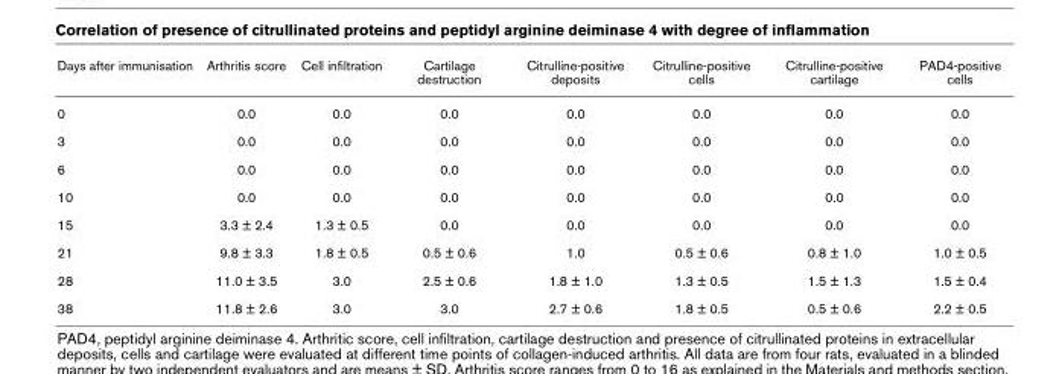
<table><thead><tr><td>Days after immunisation</td><td>Arthritis score</td><td>Cell infiltration</td><td>Cartilage destruction</td><td>Citrulline-positive deposits</td><td>Citrulline-positive cells</td><td>Citrulline-positive cartilage</td><td>PAD4-positive cells</td></tr></thead><tbody><tr><td>0</td><td>0.0</td><td>0.0</td><td>0.0</td><td>0.0</td><td>0.0</td><td>0.0</td><td>0.0</td></tr><tr><td>3</td><td>0.0</td><td>0.0</td><td>0.0</td><td>0.0</td><td>0.0</td><td>0.0</td><td>0.0</td></tr><tr><td>6</td><td>0.0</td><td>0.0</td><td>0.0</td><td>0.0</td><td>0.0</td><td>0.0</td><td>0.0</td></tr><tr><td>10</td><td>0.0</td><td>0.0</td><td>0.0</td><td>0.0</td><td>0.0</td><td>0.0</td><td>0.0</td></tr><tr><td>15</td><td>3.3 ± 2.4</td><td>1.3 ± 0.5</td><td>0.0</td><td>0.0</td><td>0.0</td><td>0.0</td><td>0.0</td></tr><tr><td>21</td><td>9.8 ± 3.3</td><td>1.8 ± 0.5</td><td>0.5 ± 0.6</td><td>1.0</td><td>0.5 ± 0.6</td><td>0.8 ± 1.0</td><td>1.0 ± 0.5</td></tr><tr><td>28</td><td>11.0 ± 3.5</td><td>3.0</td><td>2.5 ± 0.6</td><td>1.8 ± 1.0</td><td>1.3 ± 0.5</td><td>1.5 ± 1.3</td><td>1.5 ± 0.4</td></tr><tr><td>38</td><td>11.8 ± 2.6</td><td>3.0</td><td>3.0</td><td>2.7 ± 0.6</td><td>1.8 ± 0.5</td><td>0.5 ± 0.6</td><td>2.2 ± 0.5</td></tr></tbody></table>